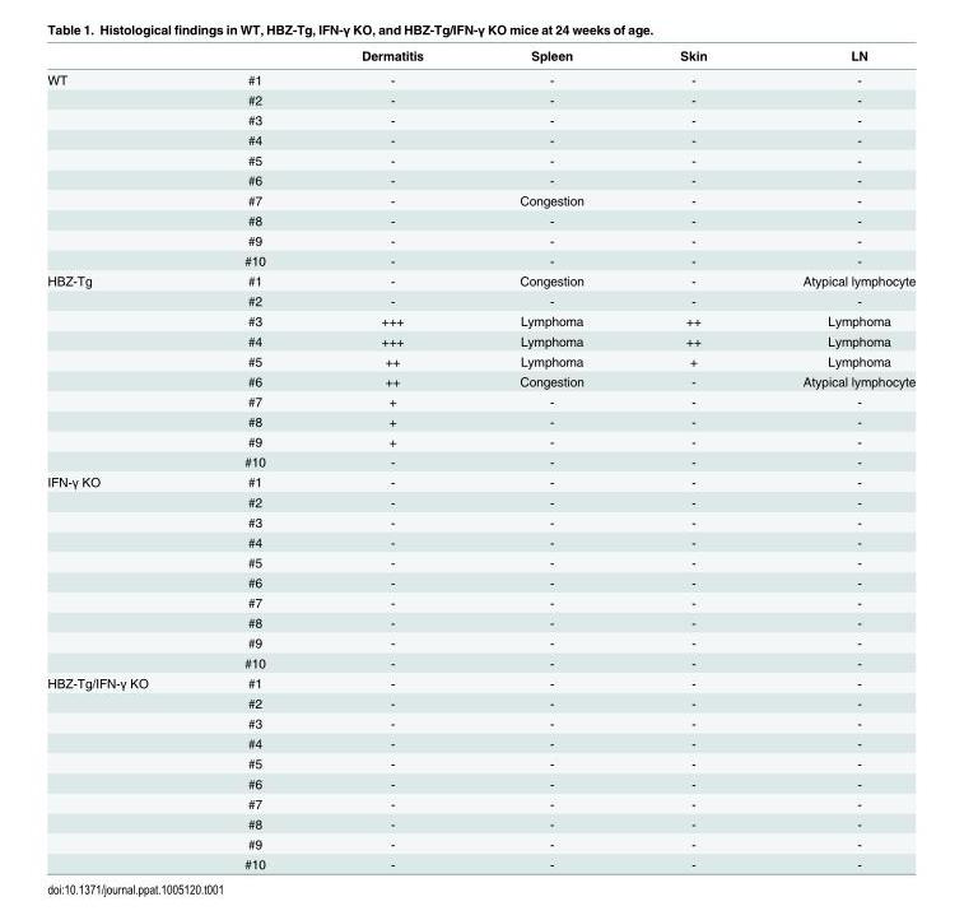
<table><thead><tr><td></td><td></td><td>Dermatitis</td><td>Spleen</td><td>Skin</td><td>LN</td></tr></thead><tbody><tr><td rowspan="10">WT</td><td>#1</td><td>-</td><td>-</td><td>-</td><td>-</td></tr><tr><td>#2</td><td>-</td><td>-</td><td>-</td><td>-</td></tr><tr><td>#3</td><td>-</td><td>-</td><td>-</td><td>-</td></tr><tr><td>#4</td><td>-</td><td>-</td><td>-</td><td>-</td></tr><tr><td>#5</td><td>-</td><td>-</td><td>-</td><td>-</td></tr><tr><td>#6</td><td>-</td><td>-</td><td>-</td><td>-</td></tr><tr><td>#7</td><td>-</td><td>Congestion</td><td>-</td><td>-</td></tr><tr><td>#8</td><td>-</td><td>-</td><td>-</td><td>-</td></tr><tr><td>#9</td><td>-</td><td>-</td><td>-</td><td>-</td></tr><tr><td>#10</td><td>-</td><td>-</td><td>-</td><td>-</td></tr><tr><td rowspan="10">HBZ-Tg</td><td>#1</td><td>-</td><td>Congestion</td><td>-</td><td>Atypical lymphocyte</td></tr><tr><td>#2</td><td>-</td><td>-</td><td>-</td><td>-</td></tr><tr><td>#3</td><td>+++</td><td>Lymphoma</td><td>++</td><td>Lymphoma</td></tr><tr><td>#4</td><td>+++</td><td>Lymphoma</td><td>++</td><td>Lymphoma</td></tr><tr><td>#5</td><td>++</td><td>Lymphoma</td><td>+</td><td>Lymphoma</td></tr><tr><td>#6</td><td>++</td><td>Congestion</td><td>-</td><td>Atypical lymphocyte</td></tr><tr><td>#7</td><td>+</td><td>-</td><td>-</td><td>-</td></tr><tr><td>#8</td><td>+</td><td>-</td><td>-</td><td>-</td></tr><tr><td>#9</td><td>+</td><td>-</td><td>-</td><td>-</td></tr><tr><td>#10</td><td>-</td><td>-</td><td>-</td><td>-</td></tr><tr><td rowspan="10">IFN-γ KO</td><td>#1</td><td>-</td><td>-</td><td>-</td><td>-</td></tr><tr><td>#2</td><td>-</td><td>-</td><td>-</td><td>-</td></tr><tr><td>#3</td><td>-</td><td>-</td><td>-</td><td>-</td></tr><tr><td>#4</td><td>-</td><td>-</td><td>-</td><td>-</td></tr><tr><td>#5</td><td>-</td><td>-</td><td>-</td><td>-</td></tr><tr><td>#6</td><td>-</td><td>-</td><td>-</td><td>-</td></tr><tr><td>#7</td><td>-</td><td>-</td><td>-</td><td>-</td></tr><tr><td>#8</td><td>-</td><td>-</td><td>-</td><td>-</td></tr><tr><td>#9</td><td>-</td><td>-</td><td>-</td><td>-</td></tr><tr><td>#10</td><td>-</td><td>-</td><td>-</td><td>-</td></tr><tr><td rowspan="10">HBZ-Tg/IFN-γ KO</td><td>#1</td><td>-</td><td>-</td><td>-</td><td>-</td></tr><tr><td>#2</td><td>-</td><td>-</td><td>-</td><td>-</td></tr><tr><td>#3</td><td>-</td><td>-</td><td>-</td><td>-</td></tr><tr><td>#4</td><td>-</td><td>-</td><td>-</td><td>-</td></tr><tr><td>#5</td><td>-</td><td>-</td><td>-</td><td>-</td></tr><tr><td>#6</td><td>-</td><td>-</td><td>-</td><td>-</td></tr><tr><td>#7</td><td>-</td><td>-</td><td>-</td><td>-</td></tr><tr><td>#8</td><td>-</td><td>-</td><td>-</td><td>-</td></tr><tr><td>#9</td><td>-</td><td>-</td><td>-</td><td>-</td></tr><tr><td>#10</td><td>-</td><td>-</td><td>-</td><td>-</td></tr></tbody></table>